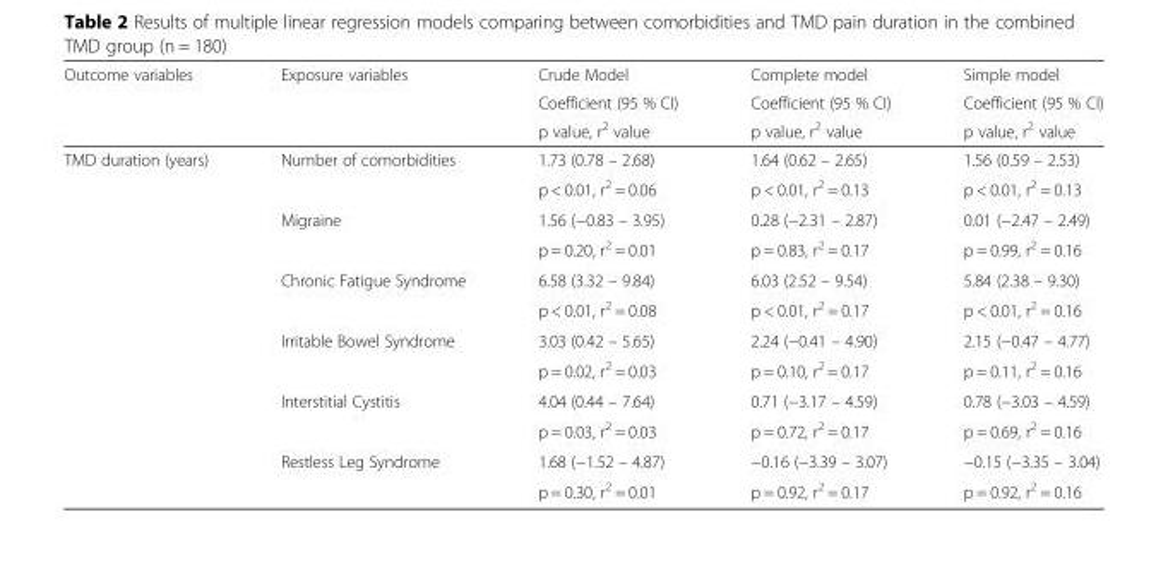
<table><thead><tr><td rowspan="3">Outcome variables</td><td rowspan="3">Exposure variables</td><td rowspan="3">Crude Model Coefficient (95 % CI) p value, r<sup>2</sup> value</td><td rowspan="3">Complete model Coefficient (95 % CI) p value, r<sup>2</sup> value</td><td rowspan="3">Simple model Coefficient (95 % CI) p value, r<sup>2</sup> value</td></tr><tr></tr><tr></tr></thead><tbody><tr><td rowspan="12">TMD duration (years)</td><td rowspan="2">Number of comorbidities</td><td>1.73 (0.78 – 2.68)</td><td>1.64 (0.62 – 2.65)</td><td>1.56 (0.59 – 2.53)</td></tr><tr><td>p &lt; 0.01, r<sup>2</sup> = 0.06</td><td>p &lt; 0.01, r<sup>2</sup> = 0.13</td><td>p &lt; 0.01, r<sup>2</sup> = 0.13</td></tr><tr><td rowspan="2">Migraine</td><td>1.56 (−0.83 – 3.95)</td><td>0.28 (−2.31 – 2.87)</td><td>0.01 (−2.47 – 2.49)</td></tr><tr><td>p = 0.20, r<sup>2</sup> = 0.01</td><td>p = 0.83, r<sup>2</sup> = 0.17</td><td>p = 0.99, r<sup>2</sup> = 0.16</td></tr><tr><td rowspan="2">Chronic Fatigue Syndrome</td><td>6.58 (3.32 – 9.84)</td><td>6.03 (2.52 – 9.54)</td><td>5.84 (2.38 – 9.30)</td></tr><tr><td>p &lt; 0.01, r<sup>2</sup> = 0.08</td><td>p &lt; 0.01, r<sup>2</sup> = 0.17</td><td>p &lt; 0.01, r<sup>2</sup> = 0.16</td></tr><tr><td rowspan="2">Irritable Bowel Syndrome</td><td>3.03 (0.42 – 5.65)</td><td>2.24 (−0.41 – 4.90)</td><td>2.15 (−0.47 – 4.77)</td></tr><tr><td>p = 0.02, r<sup>2</sup> = 0.03</td><td>p = 0.10, r<sup>2</sup> = 0.17</td><td>p = 0.11, r<sup>2</sup> = 0.16</td></tr><tr><td rowspan="2">Interstitial Cystitis</td><td>4.04 (0.44 – 7.64)</td><td>0.71 (−3.17 – 4.59)</td><td>0.78 (−3.03 – 4.59)</td></tr><tr><td>p = 0.03, r<sup>2</sup> = 0.03</td><td>p = 0.72, r<sup>2</sup> = 0.17</td><td>p = 0.69, r<sup>2</sup> = 0.16</td></tr><tr><td rowspan="2">Restless Leg Syndrome</td><td>1.68 (−1.52 – 4.87)</td><td>−0.16 (−3.39 – 3.07)</td><td>−0.15 (−3.35 – 3.04)</td></tr><tr><td>p = 0.30, r<sup>2</sup> = 0.01</td><td>p = 0.92, r<sup>2</sup> = 0.17</td><td>p = 0.92, r<sup>2</sup> = 0.16</td></tr></tbody></table>